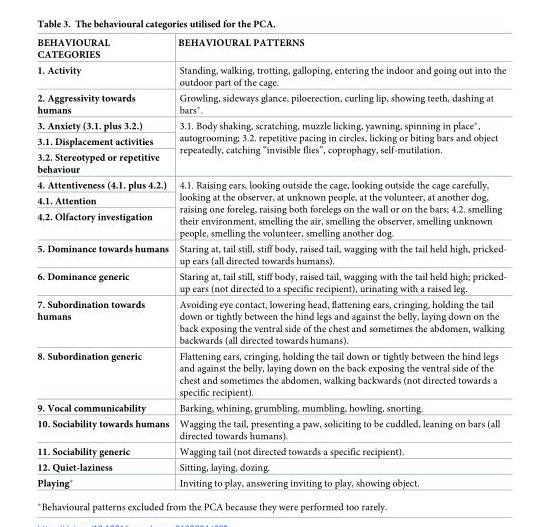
<table><thead><tr><td>BEHAVIOURAL CATEGORIES</td><td>BEHAVIOURAL PATTERNS</td></tr></thead><tbody><tr><td>1. Activity</td><td>Standing, walking, trotting, galloping, entering the indoor and going out into the outdoor part of the cage.</td></tr><tr><td>2. Aggressivity towards humans</td><td>Growling, sideways glance, piloerection, curling lip, showing teeth, dashing at bars*.</td></tr><tr><td>3. Anxiety (3.1. plus 3.2.)</td><td rowspan="3">3.1. Body shaking, scratching, muzzle licking, yawning, spinning in place*, autogrooming; 3.2. repetitive pacing in circles, licking or biting bars and object repeatedly, catching “invisible flies”, coprophagy, self-mutilation.</td></tr><tr><td>3.1. Displacement activities</td></tr><tr><td>3.2. Stereotyped or repetitive behaviour</td></tr><tr><td>4. Attentiveness (4.1. plus 4.2.)</td><td rowspan="3">4.1. Raising ears, looking outside the cage, looking outside the cage carefully, looking at the observer, at unknown people, at the volunteer, at another dog, raising one foreleg, raising both forelegs on the wall or on the bars; 4.2. smelling their environment, smelling the air, smelling the observer, smelling unknown people, smelling the volunteer, smelling another dog.</td></tr><tr><td>4.1. Attention</td></tr><tr><td>4.2. Olfactory investigation</td></tr><tr><td>5. Dominance towards humans</td><td>Staring at, tail still, stiff body, raised tail, wagging with the tail held high, pricked- up ears (all directed towards humans).</td></tr><tr><td>6. Dominance generic</td><td>Staring at, tail still, stiff body, raised tail, wagging with the tail held high; pricked- up ears (not directed to a specific recipient), urinating with a raised leg.</td></tr><tr><td>7. Subordination towards humans</td><td>Avoiding eye contact, lowering head, flattening ears, cringing, holding the tail down or tightly between the hind legs and against the belly, laying down on the back exposing the ventral side of the chest and sometimes the abdomen, walking backwards (all directed towards humans).</td></tr><tr><td>8. Subordination generic</td><td>Flattening ears, cringing, holding the tail down or tightly between the hind legs and against the belly, laying down on the back exposing the ventral side of the chest and sometimes the abdomen, walking backwards (not directed towards a specific recipient).</td></tr><tr><td>9. Vocal communicability</td><td>Barking, whining, grumbling, mumbling, howling, snorting.</td></tr><tr><td>10. Sociability towards humans</td><td>Wagging the tail, presenting a paw, soliciting to be cuddled, leaning on bars (all directed towards humans).</td></tr><tr><td>11. Sociability generic</td><td>Wagging tail (not directed towards a specific recipient).</td></tr><tr><td>12. Quiet-laziness</td><td>Sitting, laying, dozing.</td></tr><tr><td>Playing*</td><td>Inviting to play, answering inviting to play, showing object.</td></tr></tbody></table>